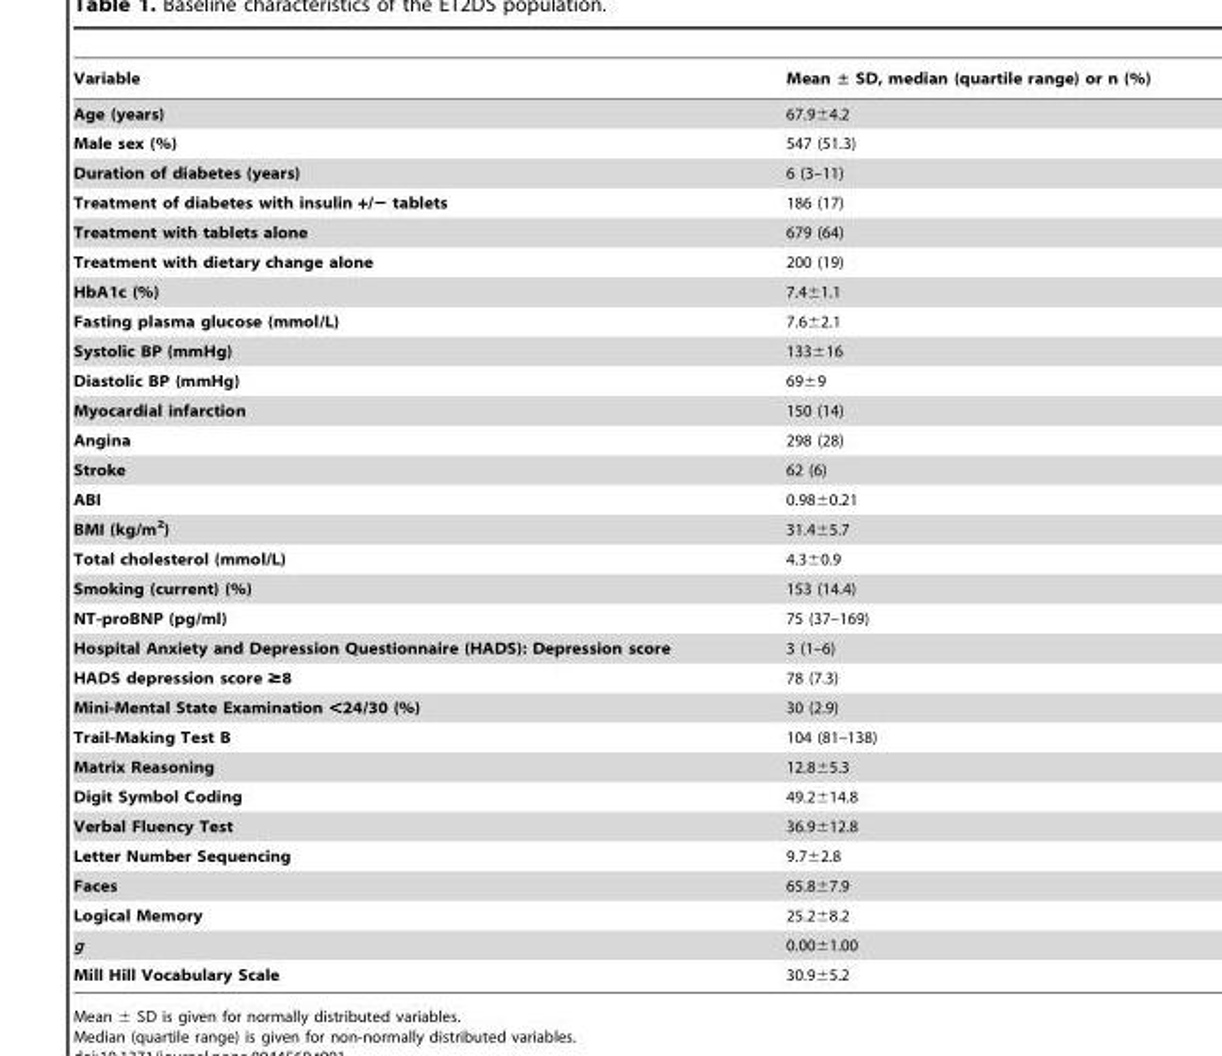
<table><thead><tr><td>Variable</td><td>Mean ± SD, median (quartile range) or n (%)</td></tr></thead><tbody><tr><td>Age (years)</td><td>67.9±4.2</td></tr><tr><td>Male sex (%)</td><td>547 (51.3)</td></tr><tr><td>Duration of diabetes (years)</td><td>6 (3–11)</td></tr><tr><td>Treatment of diabetes with insulin +/− tablets</td><td>186 (17)</td></tr><tr><td>Treatment with tablets alone</td><td>679 (64)</td></tr><tr><td>Treatment with dietary change alone</td><td>200 (19)</td></tr><tr><td>HbA1c (%)</td><td>7.4±1.1</td></tr><tr><td>Fasting plasma glucose (mmol/L)</td><td>7.6±2.1</td></tr><tr><td>Systolic BP (mmHg)</td><td>133±16</td></tr><tr><td>Diastolic BP (mmHg)</td><td>69±9</td></tr><tr><td>Myocardial infarction</td><td>150 (14)</td></tr><tr><td>Angina</td><td>298 (28)</td></tr><tr><td>Stroke</td><td>62 (6)</td></tr><tr><td>ABI</td><td>0.98±0.21</td></tr><tr><td>BMI (kg/m<sup>2</sup>)</td><td>31.4±5.7</td></tr><tr><td>Total cholesterol (mmol/L)</td><td>4.3±0.9</td></tr><tr><td>Smoking (current) (%)</td><td>153 (14.4)</td></tr><tr><td>NT-proBNP (pg/ml)</td><td>75 (37–169)</td></tr><tr><td>Hospital Anxiety and Depression Questionnaire (HADS): Depression score</td><td>3 (1–6)</td></tr><tr><td>HADS depression score ≥8</td><td>78 (7.3)</td></tr><tr><td>Mini-Mental State Examination &lt;24/30 (%)</td><td>30 (2.9)</td></tr><tr><td>Trail-Making Test B</td><td>104 (81–138)</td></tr><tr><td>Matrix Reasoning</td><td>12.8±5.3</td></tr><tr><td>Digit Symbol Coding</td><td>49.2±14.8</td></tr><tr><td>Verbal Fluency Test</td><td>36.9±12.8</td></tr><tr><td>Letter Number Sequencing</td><td>9.7±2.8</td></tr><tr><td>Faces</td><td>65.8±7.9</td></tr><tr><td>Logical Memory</td><td>25.2±8.2</td></tr><tr><td>g</td><td>0.00±1.00</td></tr><tr><td>Mill Hill Vocabulary Scale</td><td>30.9±5.2</td></tr></tbody></table>